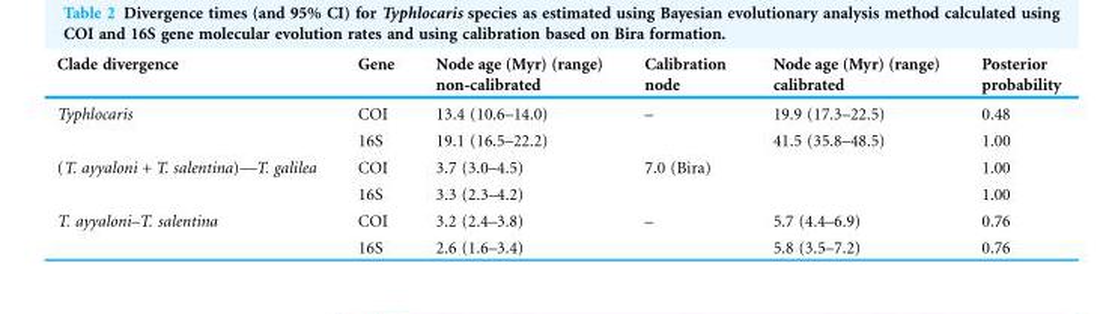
<table><thead><tr><td>Clade divergence</td><td>Gene</td><td>Node age (Myr) (range) non-calibrated</td><td>Calibration node</td><td>Node age (Myr) (range) calibrated</td><td>Posterior probability</td></tr></thead><tbody><tr><td rowspan="2">Typhlocaris</td><td>COI</td><td>13.4 (10.6–14.0)</td><td rowspan="2">–</td><td>19.9 (17.3–22.5)</td><td>0.48</td></tr><tr><td>16S</td><td>19.1 (16.5–22.2)</td><td>41.5 (35.8–48.5)</td><td>1.00</td></tr><tr><td rowspan="2">(T. ayyaloni + T. salentina)—T. galilea</td><td>COI</td><td>3.7 (3.0–4.5)</td><td rowspan="2">7.0 (Bira)</td><td></td><td>1.00</td></tr><tr><td>16S</td><td>3.3 (2.3–4.2)</td><td></td><td>1.00</td></tr><tr><td rowspan="2">T. ayyaloni–T. salentina</td><td>COI</td><td>3.2 (2.4–3.8)</td><td rowspan="2">–</td><td>5.7 (4.4–6.9)</td><td>0.76</td></tr><tr><td>16S</td><td>2.6 (1.6–3.4)</td><td>5.8 (3.5–7.2)</td><td>0.76</td></tr></tbody></table>